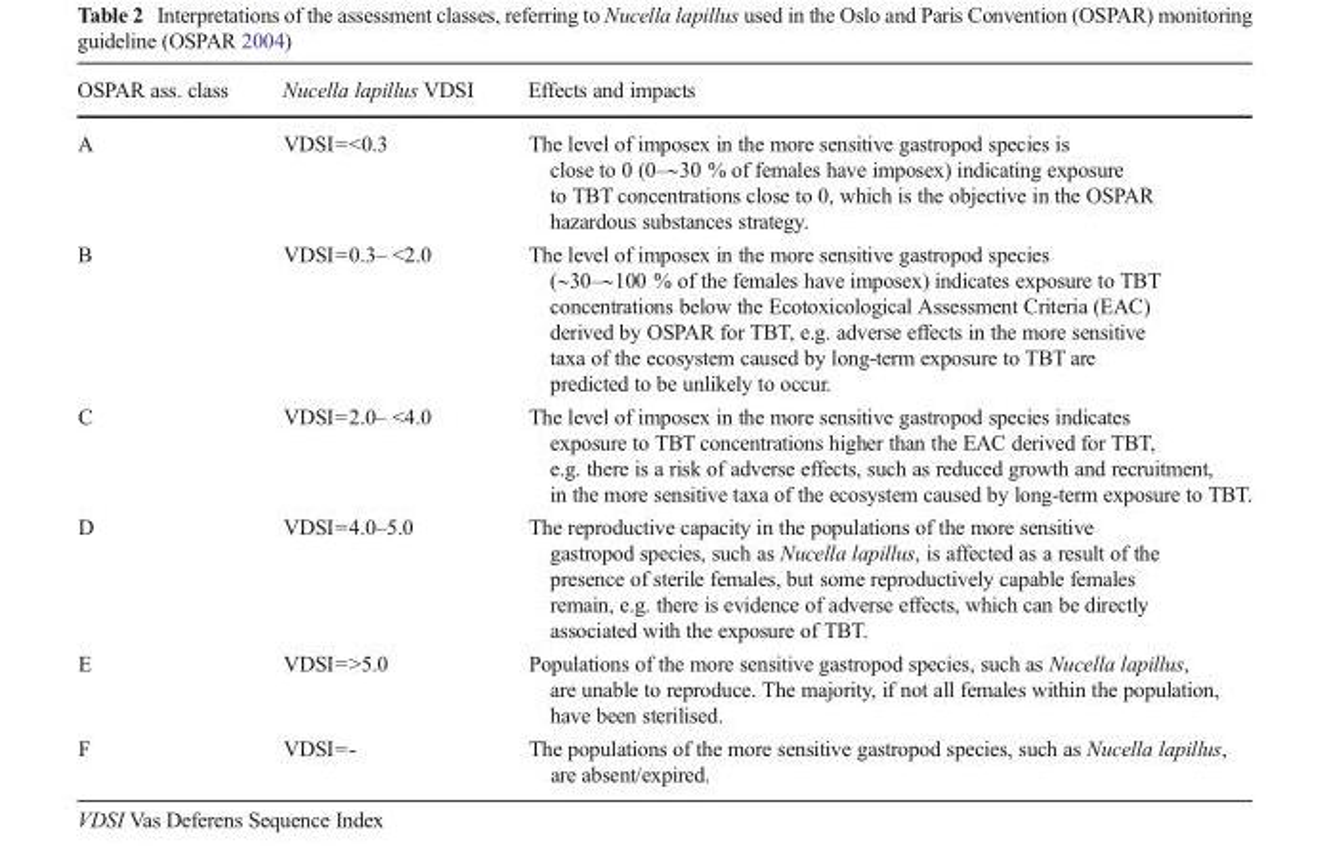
<table><thead><tr><td>OSPAR ass. class</td><td>Nucella lapillus VDSI</td><td>Effects and impacts</td></tr></thead><tbody><tr><td>A</td><td>VDSI=&lt;0.3</td><td>The level of imposex in the more sensitive gastropod species is close to 0 (0–∼30 % of females have imposex) indicating exposure to TBT concentrations close to 0, which is the objective in the OSPAR hazardous substances strategy.</td></tr><tr><td>B</td><td>VDSI=0.3– &lt;2.0</td><td>The level of imposex in the more sensitive gastropod species (∼30–∼100 % of the females have imposex) indicates exposure to TBT concentrations below the Ecotoxicological Assessment Criteria (EAC) derived by OSPAR for TBT, e.g. adverse effects in the more sensitive taxa of the ecosystem caused by long-term exposure to TBT are predicted to be unlikely to occur.</td></tr><tr><td>C</td><td>VDSI=2.0– &lt;4.0</td><td>The level of imposex in the more sensitive gastropod species indicates exposure to TBT concentrations higher than the EAC derived for TBT, e.g. there is a risk of adverse effects, such as reduced growth and recruitment, in the more sensitive taxa of the ecosystem caused by long-term exposure to TBT.</td></tr><tr><td>D</td><td>VDSI=4.0–5.0</td><td>The reproductive capacity in the populations of the more sensitive gastropod species, such as Nucella lapillus, is affected as a result of the presence of sterile females, but some reproductively capable females remain, e.g. there is evidence of adverse effects, which can be directly associated with the exposure of TBT.</td></tr><tr><td>E</td><td>VDSI=&gt;5.0</td><td>Populations of the more sensitive gastropod species, such as Nucella lapillus, are unable to reproduce. The majority, if not all females within the population, have been sterilised.</td></tr><tr><td>F</td><td>VDSI=-</td><td>The populations of the more sensitive gastropod species, such as Nucella lapillus, are absent/expired.</td></tr></tbody></table>